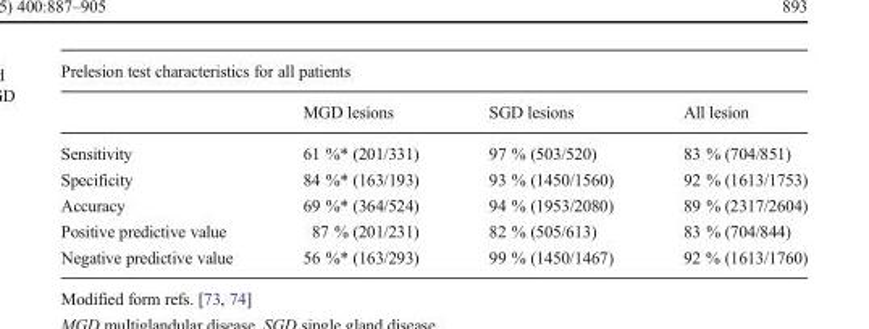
<table><thead><tr><td colspan="4">Prelesion test characteristics for all patients</td></tr><tr><td></td><td>MGD lesions</td><td>SGD lesions</td><td>All lesion</td></tr></thead><tbody><tr><td>Sensitivity</td><td>61 %* (201/331)</td><td>97 % (503/520)</td><td>83 % (704/851)</td></tr><tr><td>Specificity</td><td>84 %* (163/193)</td><td>93 % (1450/1560)</td><td>92 % (1613/1753)</td></tr><tr><td>Accuracy</td><td>69 %* (364/524)</td><td>94 % (1953/2080)</td><td>89 % (2317/2604)</td></tr><tr><td>Positive predictive value</td><td>87 % (201/231)</td><td>82 % (505/613)</td><td>83 % (704/844)</td></tr><tr><td>Negative predictive value</td><td>56 %* (163/293)</td><td>99 % (1450/1467)</td><td>92 % (1613/1760)</td></tr></tbody></table>